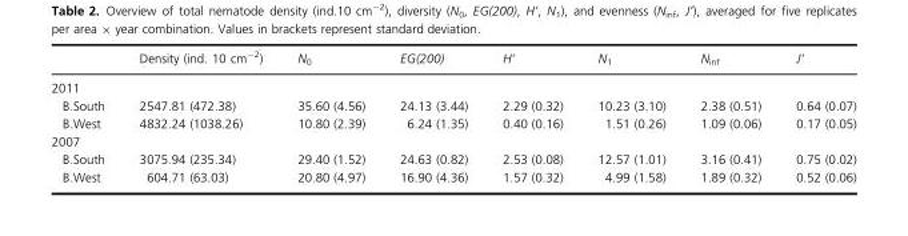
<table><thead><tr><td></td><td>Density (ind. 10 cm<sup>−2</sup>)</td><td>N<sub>0</sub></td><td>EG(200)</td><td>H’</td><td>N<sub>1</sub></td><td>N<sub>inf</sub></td><td>J’</td></tr></thead><tbody><tr><td colspan="8">2011</td></tr><tr><td>B.South</td><td>2547.81 (472.38)</td><td>35.60 (4.56)</td><td>24.13 (3.44)</td><td>2.29 (0.32)</td><td>10.23 (3.10)</td><td>2.38 (0.51)</td><td>0.64 (0.07)</td></tr><tr><td>B.West</td><td>4832.24 (1038.26)</td><td>10.80 (2.39)</td><td>6.24 (1.35)</td><td>0.40 (0.16)</td><td>1.51 (0.26)</td><td>1.09 (0.06)</td><td>0.17 (0.05)</td></tr><tr><td colspan="8">2007</td></tr><tr><td>B.South</td><td>3075.94 (235.34)</td><td>29.40 (1.52)</td><td>24.63 (0.82)</td><td>2.53 (0.08)</td><td>12.57 (1.01)</td><td>3.16 (0.41)</td><td>0.75 (0.02)</td></tr><tr><td>B.West</td><td>604.71 (63.03)</td><td>20.80 (4.97)</td><td>16.90 (4.36)</td><td>1.57 (0.32)</td><td>4.99 (1.58)</td><td>1.89 (0.32)</td><td>0.52 (0.06)</td></tr></tbody></table>